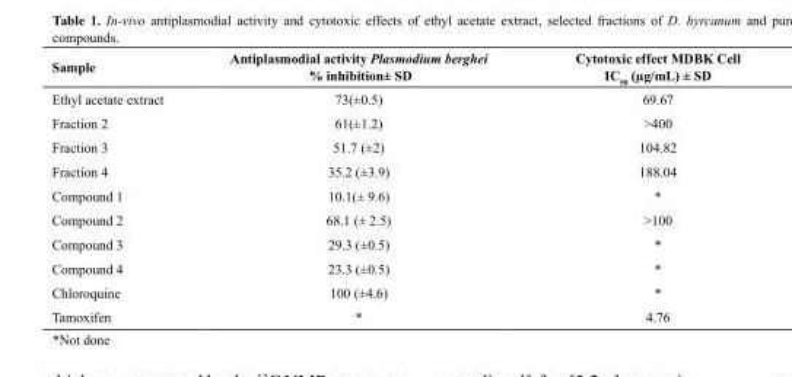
<table><thead><tr><td>Sample</td><td>Antiplasmodial activity Plasmodium berghei % inhibition± SD</td><td>Cytotoxic effect MDBK Cell IC<sub>50</sub> (µg/mL) ± SD</td></tr></thead><tbody><tr><td>Ethyl acetate extract</td><td>73(±0.5)</td><td>69.67</td></tr><tr><td>Fraction 2</td><td>61(±1.2)</td><td>&gt;400</td></tr><tr><td>Fraction 3</td><td>51.7 (±2)</td><td>104.82</td></tr><tr><td>Fraction 4</td><td>35.2 (±3.9)</td><td>188.04</td></tr><tr><td>Compound 1</td><td>10.1(± 9.6)</td><td>*</td></tr><tr><td>Compound 2</td><td>68.1 (± 2.5)</td><td>&gt;100</td></tr><tr><td>Compound 3</td><td>29.3 (±0.5)</td><td>*</td></tr><tr><td>Compound 4</td><td>23.3 (±0.5)</td><td>*</td></tr><tr><td>Chloroquine</td><td>100 (±4.6)</td><td>*</td></tr><tr><td>Tamoxifen</td><td>*</td><td>4.76</td></tr></tbody></table>